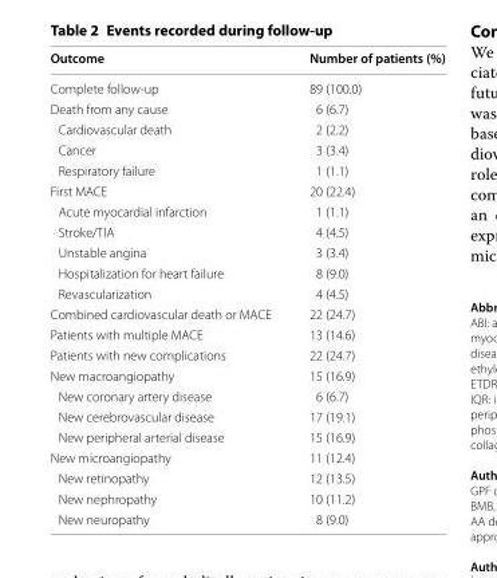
<table><thead><tr><td>Outcome</td><td>Number of patients (%)</td></tr></thead><tbody><tr><td>Complete follow-up</td><td>89 (100.0)</td></tr><tr><td>Death from any cause</td><td>6 (6.7)</td></tr><tr><td>Cardiovascular death</td><td>2 (2.2)</td></tr><tr><td>Cancer</td><td>3 (3.4)</td></tr><tr><td>Respiratory failure</td><td>1 (1.1)</td></tr><tr><td>First MACE</td><td>20 (22.4)</td></tr><tr><td>Acute myocardial infarction</td><td>1 (1.1)</td></tr><tr><td>Stroke/TIA</td><td>4 (4.5)</td></tr><tr><td>Unstable angina</td><td>3 (3.4)</td></tr><tr><td>Hospitalization for heart failure</td><td>8 (9.0)</td></tr><tr><td>Revascularization</td><td>4 (4.5)</td></tr><tr><td>Combined cardiovascular death or MACE</td><td>22 (24.7)</td></tr><tr><td>Patients with multiple MACE</td><td>13 (14.6)</td></tr><tr><td>Patients with new complications</td><td>22 (24.7)</td></tr><tr><td>New macroangiopathy</td><td>15 (16.9)</td></tr><tr><td>New coronary artery disease</td><td>6 (6.7)</td></tr><tr><td>New cerebrovascular disease</td><td>17 (19.1)</td></tr><tr><td>New peripheral arterial disease</td><td>15 (16.9)</td></tr><tr><td>New microangiopathy</td><td>11 (12.4)</td></tr><tr><td>New retinopathy</td><td>12 (13.5)</td></tr><tr><td>New nephropathy</td><td>10 (11.2)</td></tr><tr><td>New neuropathy</td><td>8 (9.0)</td></tr></tbody></table>